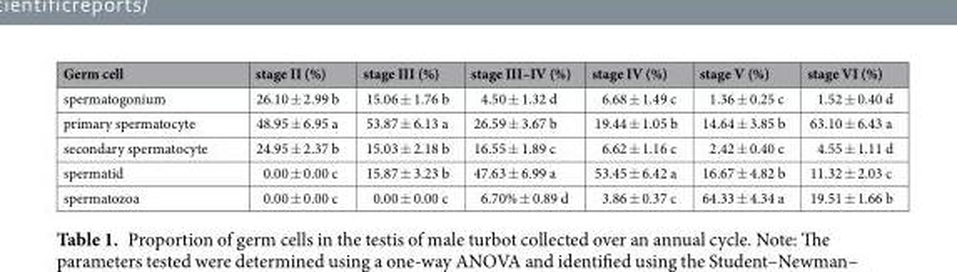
<table><thead><tr><td>Germ cell</td><td>stage II (%)</td><td>stage III (%)</td><td>stage III–IV (%)</td><td>stage IV (%)</td><td>stage V (%)</td><td>stage VI (%)</td></tr></thead><tbody><tr><td>spermatogonium</td><td>26.10 ± 2.99 b</td><td>15.06 ± 1.76 b</td><td>4.50 ± 1.32 d</td><td>6.68 ± 1.49 c</td><td>1.36 ± 0.25 c</td><td>1.52 ± 0.40 d</td></tr><tr><td>primary spermatocyte</td><td>48.95 ± 6.95 a</td><td>53.87 ± 6.13 a</td><td>26.59 ± 3.67 b</td><td>19.44 ± 1.05 b</td><td>14.64 ± 3.85 b</td><td>63.10 ± 6.43 a</td></tr><tr><td>secondary spermatocyte</td><td>24.95 ± 2.37 b</td><td>15.03 ± 2.18 b</td><td>16.55 ± 1.89 c</td><td>6.62 ± 1.16 c</td><td>2.42 ± 0.40 c</td><td>4.55 ± 1.11 d</td></tr><tr><td>spermatid</td><td>0.00 ± 0.00 c</td><td>15.87 ± 3.23 b</td><td>47.63 ± 6.99 a</td><td>53.45 ± 6.42 a</td><td>16.67 ± 4.82 b</td><td>11.32 ± 2.03 c</td></tr><tr><td>spermatozoa</td><td>0.00 ± 0.00 c</td><td>0.00 ± 0.00 c</td><td>6.70% ± 0.89 d</td><td>3.86 ± 0.37 c</td><td>64.33 ± 4.34 a</td><td>19.51 ± 1.66 b</td></tr></tbody></table>